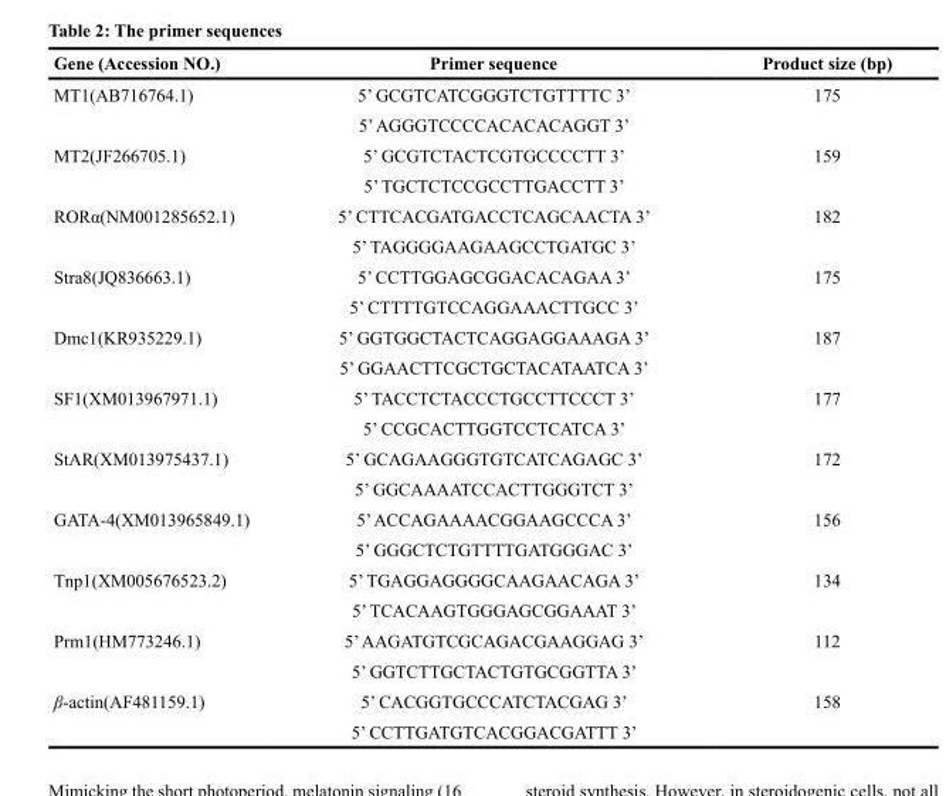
<table><thead><tr><td>Gene (Accession NO.)</td><td>Primer sequence</td><td>Product size (bp)</td></tr></thead><tbody><tr><td rowspan="2">MT1(AB716764.1)</td><td>5’ GCGTCATCGGGTCTGTTTTC 3’</td><td>175</td></tr><tr><td>5’ AGGGTCCCCACACACAGGT 3’</td><td></td></tr><tr><td rowspan="2">MT2(JF266705.1)</td><td>5’ GCGTCTACTCGTGCCCCTT 3’</td><td>159</td></tr><tr><td>5’ TGCTCTCCGCCTTGACCTT 3’</td><td></td></tr><tr><td rowspan="2">RORα(NM001285652.1)</td><td>5’ CTTCACGATGACCTCAGCAACTA 3’</td><td>182</td></tr><tr><td>5’ TAGGGGAAGAAGCCTGATGC 3’</td><td></td></tr><tr><td rowspan="2">Stra8(JQ836663.1)</td><td>5’ CCTTGGAGCGGACACAGAA 3’</td><td>175</td></tr><tr><td>5’ CTTTTGTCCAGGAAACTTGCC 3’</td><td></td></tr><tr><td rowspan="2">Dmc1(KR935229.1)</td><td>5’ GGTGGCTACTCAGGAGGAAAGA 3’</td><td>187</td></tr><tr><td>5’ GGAACTTCGCTGCTACATAATCA 3’</td><td></td></tr><tr><td rowspan="2">SF1(XM013967971.1)</td><td>5’ TACCTCTACCCTGCCTTCCCT 3’</td><td>177</td></tr><tr><td>5’ CCGCACTTGGTCCTCATCA 3’</td><td></td></tr><tr><td rowspan="2">StAR(XM013975437.1)</td><td>5’ GCAGAAGGGTGTCATCAGAGC 3’</td><td>172</td></tr><tr><td>5’ GGCAAAATCCACTTGGGTCT 3’</td><td></td></tr><tr><td rowspan="2">GATA-4(XM013965849.1)</td><td>5’ ACCAGAAAACGGAAGCCCA 3’</td><td>156</td></tr><tr><td>5’ GGGCTCTGTTTTGATGGGAC 3’</td><td></td></tr><tr><td rowspan="2">Tnp1(XM005676523.2)</td><td>5’ TGAGGAGGGGCAAGAACAGA 3’</td><td>134</td></tr><tr><td>5’ TCACAAGTGGGAGCGGAAAT 3’</td><td></td></tr><tr><td rowspan="2">Prm1(HM773246.1)</td><td>5’ AAGATGTCGCAGACGAAGGAG 3’</td><td>112</td></tr><tr><td>5’ GGTCTTGCTACTGTGCGGTTA 3’</td><td></td></tr><tr><td rowspan="2">β-actin(AF481159.1)</td><td>5’ CACGGTGCCCATCTACGAG 3’</td><td>158</td></tr><tr><td>5’ CCTTGATGTCACGGACGATTT 3’</td><td></td></tr></tbody></table>